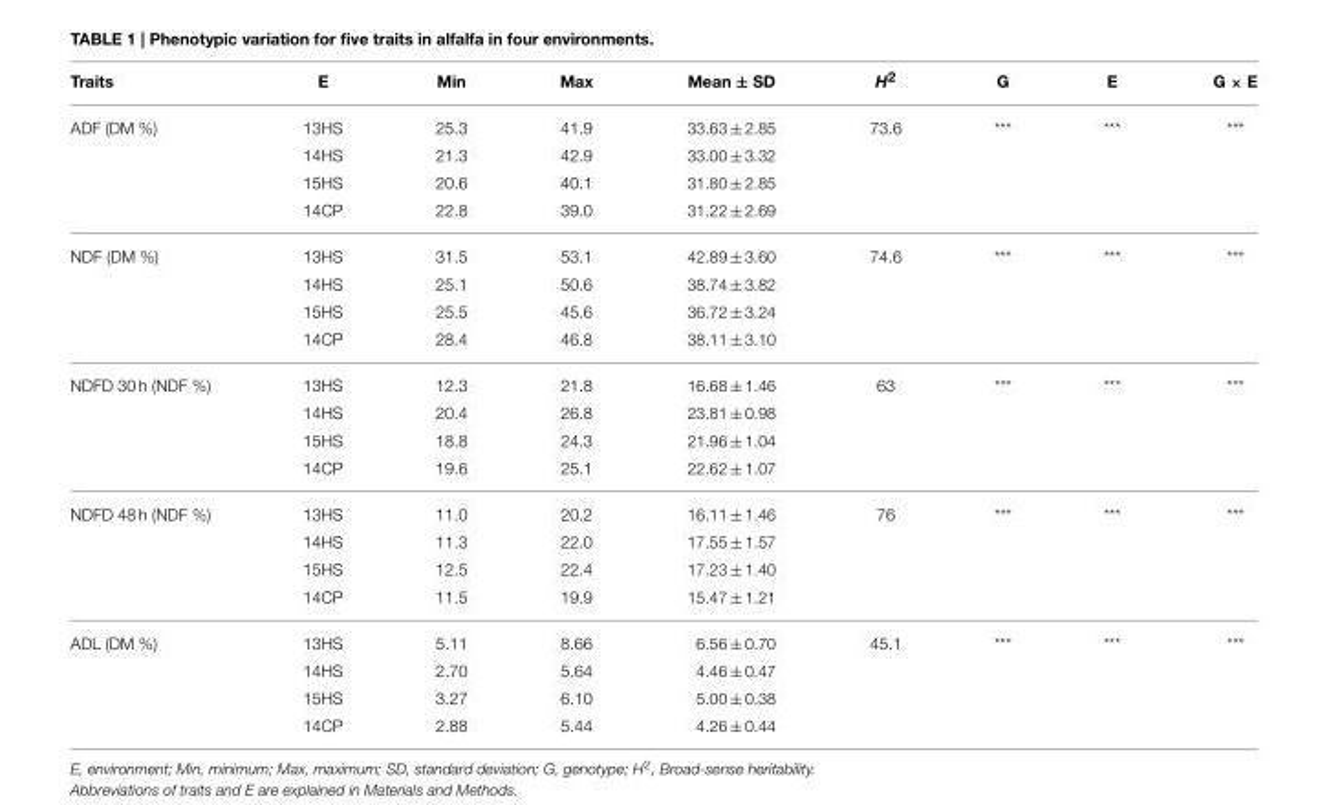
<table><thead><tr><td>Traits</td><td>E</td><td>Min</td><td>Max</td><td>Mean ± SD</td><td>H<sup>2</sup></td><td>G</td><td>E</td><td>G × E</td></tr></thead><tbody><tr><td rowspan="4">ADF (DM %)</td><td>13HS</td><td>25.3</td><td>41.9</td><td>33.63 ± 2.85</td><td>73.6</td><td>***</td><td>***</td><td>***</td></tr><tr><td>14HS</td><td>21.3</td><td>42.9</td><td>33.00 ± 3.32</td><td></td><td></td><td></td><td></td></tr><tr><td>15HS</td><td>20.6</td><td>40.1</td><td>31.80 ± 2.85</td><td></td><td></td><td></td><td></td></tr><tr><td>14CP</td><td>22.8</td><td>39.0</td><td>31.22 ± 2.69</td><td></td><td></td><td></td><td></td></tr><tr><td rowspan="4">NDF (DM %)</td><td>13HS</td><td>31.5</td><td>53.1</td><td>42.89 ± 3.60</td><td>74.6</td><td>***</td><td>***</td><td>***</td></tr><tr><td>14HS</td><td>25.1</td><td>50.6</td><td>38.74 ± 3.82</td><td></td><td></td><td></td><td></td></tr><tr><td>15HS</td><td>25.5</td><td>45.6</td><td>36.72 ± 3.24</td><td></td><td></td><td></td><td></td></tr><tr><td>14CP</td><td>28.4</td><td>46.8</td><td>38.11 ± 3.10</td><td></td><td></td><td></td><td></td></tr><tr><td rowspan="4">NDFD 30 h (NDF %)</td><td>13HS</td><td>12.3</td><td>21.8</td><td>16.68 ± 1.46</td><td>63</td><td>***</td><td>***</td><td>***</td></tr><tr><td>14HS</td><td>20.4</td><td>26.8</td><td>23.81 ± 0.98</td><td></td><td></td><td></td><td></td></tr><tr><td>15HS</td><td>18.8</td><td>24.3</td><td>21.96 ± 1.04</td><td></td><td></td><td></td><td></td></tr><tr><td>14CP</td><td>19.6</td><td>25.1</td><td>22.62 ± 1.07</td><td></td><td></td><td></td><td></td></tr><tr><td rowspan="4">NDFD 48 h (NDF %)</td><td>13HS</td><td>11.0</td><td>20.2</td><td>16.11 ± 1.46</td><td>76</td><td>***</td><td>***</td><td>***</td></tr><tr><td>14HS</td><td>11.3</td><td>22.0</td><td>17.55 ± 1.57</td><td></td><td></td><td></td><td></td></tr><tr><td>15HS</td><td>12.5</td><td>22.4</td><td>17.23 ± 1.40</td><td></td><td></td><td></td><td></td></tr><tr><td>14CP</td><td>11.5</td><td>19.9</td><td>15.47 ± 1.21</td><td></td><td></td><td></td><td></td></tr><tr><td rowspan="4">ADL (DM %)</td><td>13HS</td><td>5.11</td><td>8.66</td><td>6.56 ± 0.70</td><td>45.1</td><td>***</td><td>***</td><td>***</td></tr><tr><td>14HS</td><td>2.70</td><td>5.64</td><td>4.46 ± 0.47</td><td></td><td></td><td></td><td></td></tr><tr><td>15HS</td><td>3.27</td><td>6.10</td><td>5.00 ± 0.38</td><td></td><td></td><td></td><td></td></tr><tr><td>14CP</td><td>2.88</td><td>5.44</td><td>4.26 ± 0.44</td><td></td><td></td><td></td><td></td></tr></tbody></table>